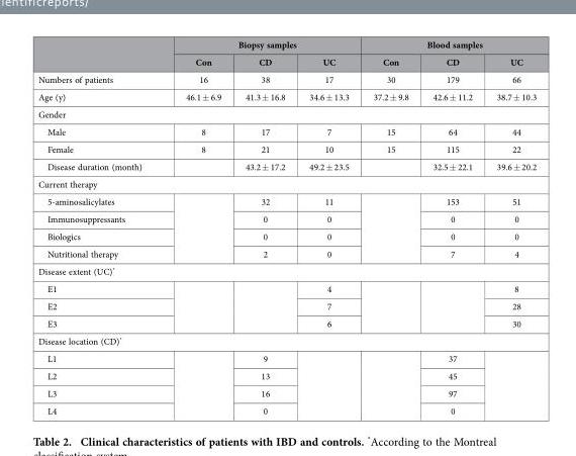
<table><thead><tr><td rowspan="2"></td><td colspan="3">Biopsy samples</td><td colspan="3">Blood samples</td></tr><tr><td>Con</td><td>CD</td><td>UC</td><td>Con</td><td>CD</td><td>UC</td></tr></thead><tbody><tr><td>Numbers of patients</td><td>16</td><td>38</td><td>17</td><td>30</td><td>179</td><td>66</td></tr><tr><td>Age (y)</td><td>46.1 ± 6.9</td><td>41.3 ± 16.8</td><td>34.6 ± 13.3</td><td>37.2 ± 9.8</td><td>42.6 ± 11.2</td><td>38.7 ± 10.3</td></tr><tr><td colspan="7">Gender</td></tr><tr><td>Male</td><td>8</td><td>17</td><td>7</td><td>15</td><td>64</td><td>44</td></tr><tr><td>Female</td><td>8</td><td>21</td><td>10</td><td>15</td><td>115</td><td>22</td></tr><tr><td>Disease duration (month)</td><td></td><td>43.2 ± 17.2</td><td>49.2 ± 23.5</td><td></td><td>32.5 ± 22.1</td><td>39.6 ± 20.2</td></tr><tr><td colspan="7">Current therapy</td></tr><tr><td>5-aminosalicylates</td><td rowspan="4"></td><td>32</td><td>11</td><td rowspan="4"></td><td>153</td><td>51</td></tr><tr><td>Immunosuppressants</td><td>0</td><td>0</td><td>0</td><td>0</td></tr><tr><td>Biologics</td><td>0</td><td>0</td><td>0</td><td>0</td></tr><tr><td>Nutritional therapy</td><td>2</td><td>0</td><td>7</td><td>4</td></tr><tr><td colspan="7">Disease extent (UC)*</td></tr><tr><td>E1</td><td rowspan="3"></td><td rowspan="3"></td><td>4</td><td rowspan="3"></td><td rowspan="3"></td><td>8</td></tr><tr><td>E2</td><td>7</td><td>28</td></tr><tr><td>E3</td><td>6</td><td>30</td></tr><tr><td colspan="7">Disease location (CD)*</td></tr><tr><td>L1</td><td rowspan="4"></td><td>9</td><td rowspan="4"></td><td rowspan="4"></td><td>37</td><td rowspan="4"></td></tr><tr><td>L2</td><td>13</td><td>45</td></tr><tr><td>L3</td><td>16</td><td>97</td></tr><tr><td>L4</td><td>0</td><td>0</td></tr></tbody></table>